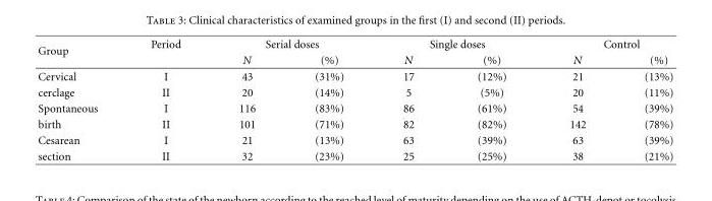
<table><thead><tr><td rowspan="2">Group</td><td rowspan="2">Period</td><td colspan="2">Serial doses</td><td colspan="2">Single doses</td><td colspan="2">Control</td></tr><tr><td>N</td><td>(%)</td><td>N</td><td>(%)</td><td>N</td><td>(%)</td></tr></thead><tbody><tr><td>Cervical</td><td>I</td><td>43</td><td>(31%)</td><td>17</td><td>(12%)</td><td>21</td><td>(13%)</td></tr><tr><td>cerclage</td><td>II</td><td>20</td><td>(14%)</td><td>5</td><td>(5%)</td><td>20</td><td>(11%)</td></tr><tr><td>Spontaneous</td><td>I</td><td>116</td><td>(83%)</td><td>86</td><td>(61%)</td><td>54</td><td>(39%)</td></tr><tr><td>birth</td><td>II</td><td>101</td><td>(71%)</td><td>82</td><td>(82%)</td><td>142</td><td>(78%)</td></tr><tr><td>Cesarean</td><td>I</td><td>21</td><td>(13%)</td><td>63</td><td>(39%)</td><td>63</td><td>(39%)</td></tr><tr><td>section</td><td>II</td><td>32</td><td>(23%)</td><td>25</td><td>(25%)</td><td>38</td><td>(21%)</td></tr></tbody></table>